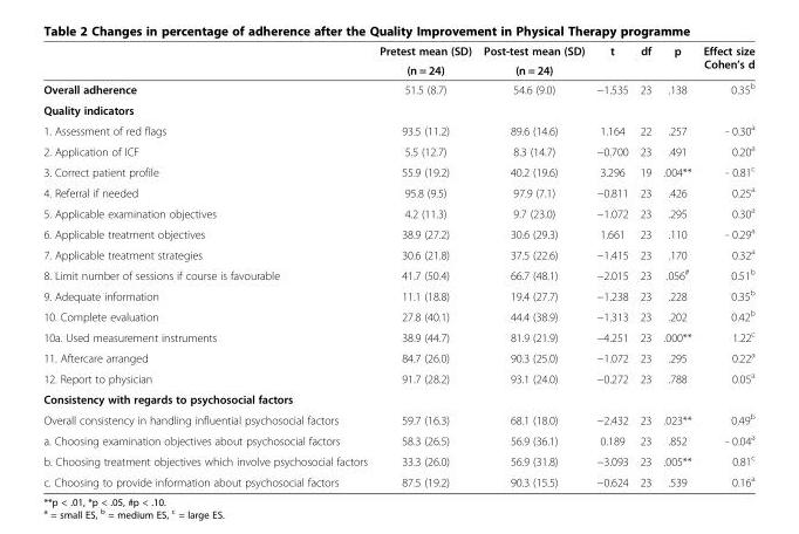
<table><thead><tr><td rowspan="2"></td><td rowspan="2">Pretest mean (SD) (n = 24)</td><td rowspan="2">Post-test mean (SD) (n = 24)</td><td rowspan="2">t</td><td rowspan="2">df</td><td rowspan="2">p</td><td rowspan="2">Effect size Cohen’s d</td></tr><tr></tr></thead><tbody><tr><td>Overall adherence</td><td>51.5 (8.7)</td><td>54.6 (9.0)</td><td>−1.535</td><td>23</td><td>.138</td><td>0.35<sup>b</sup></td></tr><tr><td colspan="7">Quality indicators</td></tr><tr><td>1. Assessment of red flags</td><td>93.5 (11.2)</td><td>89.6 (14.6)</td><td>1.164</td><td>22</td><td>.257</td><td>- 0.30<sup>a</sup></td></tr><tr><td>2. Application of ICF</td><td>5.5 (12.7)</td><td>8.3 (14.7)</td><td>−0.700</td><td>23</td><td>.491</td><td>0.20<sup>a</sup></td></tr><tr><td>3. Correct patient profile</td><td>55.9 (19.2)</td><td>40.2 (19.6)</td><td>3.296</td><td>19</td><td>.004**</td><td>- 0.81<sup>c</sup></td></tr><tr><td>4. Referral if needed</td><td>95.8 (9.5)</td><td>97.9 (7.1)</td><td>−0.811</td><td>23</td><td>.426</td><td>0.25<sup>a</sup></td></tr><tr><td>5. Applicable examination objectives</td><td>4.2 (11.3)</td><td>9.7 (23.0)</td><td>−1.072</td><td>23</td><td>.295</td><td>0.30<sup>a</sup></td></tr><tr><td>6. Applicable treatment objectives</td><td>38.9 (27.2)</td><td>30.6 (29.3)</td><td>1.661</td><td>23</td><td>.110</td><td>- 0.29<sup>a</sup></td></tr><tr><td>7. Applicable treatment strategies</td><td>30.6 (21.8)</td><td>37.5 (22.6)</td><td>−1.415</td><td>23</td><td>.170</td><td>0.32<sup>a</sup></td></tr><tr><td>8. Limit number of sessions if course is favourable</td><td>41.7 (50.4)</td><td>66.7 (48.1)</td><td>−2.015</td><td>23</td><td>.056<sup>#</sup></td><td>0.51<sup>b</sup></td></tr><tr><td>9. Adequate information</td><td>11.1 (18.8)</td><td>19.4 (27.7)</td><td>−1.238</td><td>23</td><td>.228</td><td>0.35<sup>b</sup></td></tr><tr><td>10. Complete evaluation</td><td>27.8 (40.1)</td><td>44.4 (38.9)</td><td>−1.313</td><td>23</td><td>.202</td><td>0.42<sup>b</sup></td></tr><tr><td>10a. Used measurement instruments</td><td>38.9 (44.7)</td><td>81.9 (21.9)</td><td>−4.251</td><td>23</td><td>.000**</td><td>1.22<sup>c</sup></td></tr><tr><td>11. Aftercare arranged</td><td>84.7 (26.0)</td><td>90.3 (25.0)</td><td>−1.072</td><td>23</td><td>.295</td><td>0.22<sup>a</sup></td></tr><tr><td>12. Report to physician</td><td>91.7 (28.2)</td><td>93.1 (24.0)</td><td>−0.272</td><td>23</td><td>.788</td><td>0.05<sup>a</sup></td></tr><tr><td colspan="7">Consistency with regards to psychosocial factors</td></tr><tr><td>Overall consistency in handling influential psychosocial factors</td><td>59.7 (16.3)</td><td>68.1 (18.0)</td><td>−2.432</td><td>23</td><td>.023**</td><td>0.49<sup>b</sup></td></tr><tr><td>a. Choosing examination objectives about psychosocial factors</td><td>58.3 (26.5)</td><td>56.9 (36.1)</td><td>0.189</td><td>23</td><td>.852</td><td>- 0.04<sup>a</sup></td></tr><tr><td>b. Choosing treatment objectives which involve psychosocial factors</td><td>33.3 (26.0)</td><td>56.9 (31.8)</td><td>−3.093</td><td>23</td><td>.005**</td><td>0.81<sup>c</sup></td></tr><tr><td>c. Choosing to provide information about psychosocial factors</td><td>87.5 (19.2)</td><td>90.3 (15.5)</td><td>−0.624</td><td>23</td><td>.539</td><td>0.16<sup>a</sup></td></tr></tbody></table>